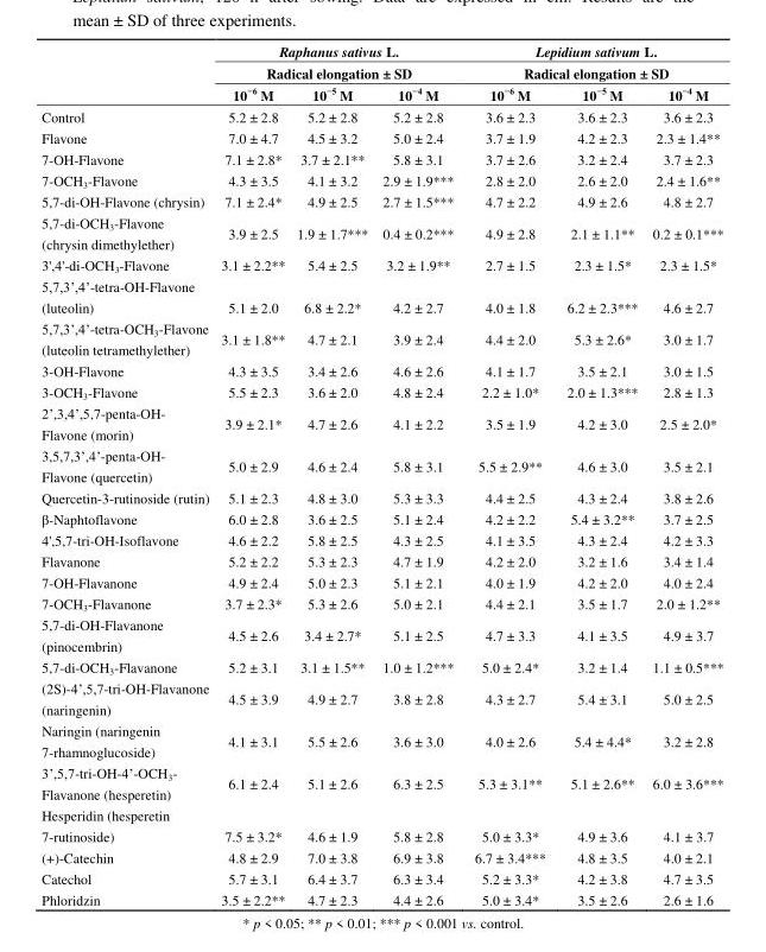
<table><thead><tr><td rowspan="3"></td><td rowspan="2" colspan="3">Raphanus sativus L. Radical elongation ± SD</td><td rowspan="2" colspan="3">Lepidium sativum L. Radical elongation ± SD</td></tr><tr></tr><tr><td>10<sup>−6</sup> M</td><td>10<sup>−5</sup> M</td><td>10<sup>−4</sup> M</td><td>10<sup>−6</sup> M</td><td>10<sup>−5</sup> M</td><td>10<sup>−4</sup> M</td></tr></thead><tbody><tr><td>Control</td><td>5.2 ± 2.8</td><td>5.2 ± 2.8</td><td>5.2 ± 2.8</td><td>3.6 ± 2.3</td><td>3.6 ± 2.3</td><td>3.6 ± 2.3</td></tr><tr><td>Flavone</td><td>7.0 ± 4.7</td><td>4.5 ± 3.2</td><td>5.0 ± 2.4</td><td>3.7 ± 1.9</td><td>4.2 ± 2.3</td><td>2.3 ± 1.4**</td></tr><tr><td>7-OH-Flavone</td><td>7.1 ± 2.8*</td><td>3.7 ± 2.1**</td><td>5.8 ± 3.1</td><td>3.7 ± 2.6</td><td>3.2 ± 2.4</td><td>3.7 ± 2.3</td></tr><tr><td>7-OCH<sub>3</sub>-Flavone</td><td>4.3 ± 3.5</td><td>4.1 ± 3.2</td><td>2.9 ± 1.9***</td><td>2.8 ± 2.0</td><td>2.6 ± 2.0</td><td>2.4 ± 1.6**</td></tr><tr><td>5,7-di-OH-Flavone (chrysin)</td><td>7.1 ± 2.4*</td><td>4.9 ± 2.5</td><td>2.7 ± 1.5***</td><td>4.7 ± 2.2</td><td>4.9 ± 2.6</td><td>4.8 ± 2.7</td></tr><tr><td>5,7-di-OCH<sub>3</sub>-Flavone (chrysin dimethylether)</td><td>3.9 ± 2.5</td><td>1.9 ± 1.7***</td><td>0.4 ± 0.2***</td><td>4.9 ± 2.8</td><td>2.1 ± 1.1**</td><td>0.2 ± 0.1***</td></tr><tr><td>3&#x27;,4&#x27;-di-OCH<sub>3</sub>-Flavone</td><td>3.1 ± 2.2**</td><td>5.4 ± 2.5</td><td>3.2 ± 1.9**</td><td>2.7 ± 1.5</td><td>2.3 ± 1.5*</td><td>2.3 ± 1.5*</td></tr><tr><td>5,7,3’,4’-tetra-OH-Flavone (luteolin)</td><td>5.1 ± 2.0</td><td>6.8 ± 2.2*</td><td>4.2 ± 2.7</td><td>4.0 ± 1.8</td><td>6.2 ± 2.3***</td><td>4.6 ± 2.7</td></tr><tr><td>5,7,3’,4’-tetra-OCH<sub>3</sub>-Flavone (luteolin tetramethylether)</td><td>3.1 ± 1.8**</td><td>4.7 ± 2.1</td><td>3.9 ± 2.4</td><td>4.4 ± 2.0</td><td>5.3 ± 2.6*</td><td>3.0 ± 1.7</td></tr><tr><td>3-OH-Flavone</td><td>4.3 ± 3.5</td><td>3.4 ± 2.6</td><td>4.6 ± 2.6</td><td>4.1 ± 1.7</td><td>3.5 ± 2.1</td><td>3.0 ± 1.5</td></tr><tr><td>3-OCH<sub>3</sub>-Flavone</td><td>5.5 ± 2.3</td><td>3.6 ± 2.0</td><td>4.8 ± 2.4</td><td>2.2 ± 1.0*</td><td>2.0 ± 1.3***</td><td>2.8 ± 1.3</td></tr><tr><td>2’,3,4’,5,7-penta-OH- Flavone (morin)</td><td>3.9 ± 2.1*</td><td>4.7 ± 2.6</td><td>4.1 ± 2.2</td><td>3.5 ± 1.9</td><td>4.2 ± 3.0</td><td>2.5 ± 2.0*</td></tr><tr><td>3,5,7,3’,4’-penta-OH- Flavone (quercetin)</td><td>5.0 ± 2.9</td><td>4.6 ± 2.4</td><td>5.8 ± 3.1</td><td>5.5 ± 2.9**</td><td>4.6 ± 3.0</td><td>3.5 ± 2.1</td></tr><tr><td>Quercetin-3-rutinoside (rutin)</td><td>5.1 ± 2.3</td><td>4.8 ± 3.0</td><td>5.3 ± 3.3</td><td>4.4 ± 2.5</td><td>4.3 ± 2.4</td><td>3.8 ± 2.6</td></tr><tr><td>β-Naphtoflavone</td><td>6.0 ± 2.8</td><td>3.6 ± 2.5</td><td>5.1 ± 2.4</td><td>4.2 ± 2.2</td><td>5.4 ± 3.2**</td><td>3.7 ± 2.5</td></tr><tr><td>4&#x27;,5,7-tri-OH-Isoflavone</td><td>4.6 ± 2.2</td><td>5.8 ± 2.5</td><td>4.3 ± 2.5</td><td>4.1 ± 3.5</td><td>4.3 ± 2.4</td><td>4.2 ± 3.3</td></tr><tr><td>Flavanone</td><td>5.2 ± 2.2</td><td>5.3 ± 2.3</td><td>4.7 ± 1.9</td><td>4.2 ± 2.0</td><td>3.2 ± 1.6</td><td>3.4 ± 1.4</td></tr><tr><td>7-OH-Flavanone</td><td>4.9 ± 2.4</td><td>5.0 ± 2.3</td><td>5.1 ± 2.1</td><td>4.0 ± 1.9</td><td>4.2 ± 2.0</td><td>4.0 ± 2.4</td></tr><tr><td>7-OCH<sub>3</sub>-Flavanone</td><td>3.7 ± 2.3*</td><td>5.3 ± 2.6</td><td>5.0 ± 2.1</td><td>4.4 ± 2.1</td><td>3.5 ± 1.7</td><td>2.0 ± 1.2**</td></tr><tr><td>5,7-di-OH-Flavanone (pinocembrin)</td><td>4.5 ± 2.6</td><td>3.4 ± 2.7*</td><td>5.1 ± 2.5</td><td>4.7 ± 3.3</td><td>4.1 ± 3.5</td><td>4.9 ± 3.7</td></tr><tr><td>5,7-di-OCH<sub>3</sub>-Flavanone</td><td>5.2 ± 3.1</td><td>3.1 ± 1.5**</td><td>1.0 ± 1.2***</td><td>5.0 ± 2.4*</td><td>3.2 ± 1.4</td><td>1.1 ± 0.5***</td></tr><tr><td>(2S)-4’,5,7-tri-OH-Flavanone (naringenin)</td><td>4.5 ± 3.9</td><td>4.9 ± 2.7</td><td>3.8 ± 2.8</td><td>4.3 ± 2.7</td><td>5.4 ± 3.1</td><td>5.0 ± 2.5</td></tr><tr><td>Naringin (naringenin 7-rhamnoglucoside)</td><td>4.1 ± 3.1</td><td>5.5 ± 2.6</td><td>3.6 ± 3.0</td><td>4.0 ± 2.6</td><td>5.4 ± 4.4*</td><td>3.2 ± 2.8</td></tr><tr><td>3’,5,7-tri-OH-4’-OCH<sub>3</sub>- Flavanone (hesperetin)</td><td>6.1 ± 2.4</td><td>5.1 ± 2.6</td><td>6.3 ± 2.5</td><td>5.3 ± 3.1**</td><td>5.1 ± 2.6**</td><td>6.0 ± 3.6***</td></tr><tr><td>Hesperidin (hesperetin 7-rutinoside)</td><td>7.5 ± 3.2*</td><td>4.6 ± 1.9</td><td>5.8 ± 2.8</td><td>5.0 ± 3.3*</td><td>4.9 ± 3.6</td><td>4.1 ± 3.7</td></tr><tr><td>(+)-Catechin</td><td>4.8 ± 2.9</td><td>7.0 ± 3.8</td><td>6.9 ± 3.8</td><td>6.7 ± 3.4***</td><td>4.8 ± 3.5</td><td>4.0 ± 2.1</td></tr><tr><td>Catechol</td><td>5.7 ± 3.1</td><td>6.4 ± 3.7</td><td>6.3 ± 3.4</td><td>5.2 ± 3.3*</td><td>4.2 ± 3.8</td><td>4.7 ± 3.5</td></tr><tr><td>Phloridzin</td><td>3.5 ± 2.2**</td><td>4.7 ± 2.3</td><td>4.4 ± 2.6</td><td>5.0 ± 3.4*</td><td>3.5 ± 2.6</td><td>2.6 ± 1.6</td></tr></tbody></table>